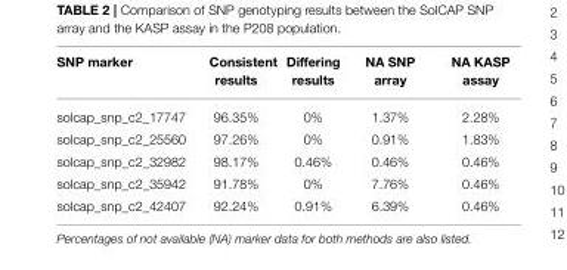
<table><thead><tr><td>SNP marker</td><td>Consistent results</td><td>Differing results</td><td>NA SNP array</td><td>NA KASP assay</td></tr></thead><tbody><tr><td>solcap_snp_c2_17747</td><td>96.35%</td><td>0%</td><td>1.37%</td><td>2.28%</td></tr><tr><td>solcap_snp_c2_25560</td><td>97.26%</td><td>0%</td><td>0.91%</td><td>1.83%</td></tr><tr><td>solcap_snp_c2_32982</td><td>98.17%</td><td>0.46%</td><td>0.46%</td><td>0.46%</td></tr><tr><td>solcap_snp_c2_35942</td><td>91.78%</td><td>0%</td><td>7.76%</td><td>0.46%</td></tr><tr><td>solcap_snp_c2_42407</td><td>92.24%</td><td>0.91%</td><td>6.39%</td><td>0.46%</td></tr></tbody></table>